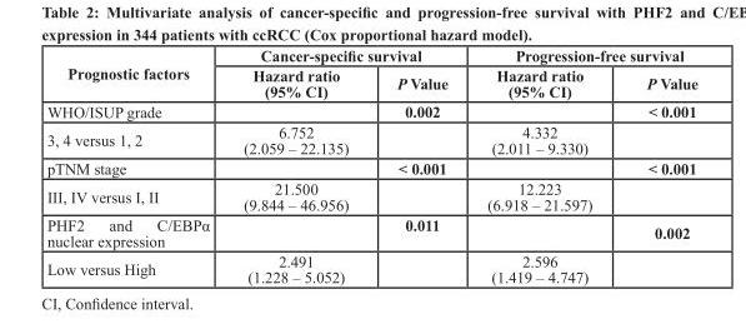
<table><thead><tr><td rowspan="2">Prognostic factors</td><td colspan="2">Cancer-specific survival</td><td colspan="2">Progression-free survival</td></tr><tr><td>Hazard ratio (95% CI)</td><td>P Value</td><td>Hazard ratio (95% CI)</td><td>P Value</td></tr></thead><tbody><tr><td>WHO/ISUP grade</td><td></td><td>0.002</td><td></td><td>&lt; 0.001</td></tr><tr><td>3, 4 versus 1, 2</td><td>6.752 (2.059 – 22.135)</td><td></td><td>4.332 (2.011 – 9.330)</td><td></td></tr><tr><td>pTNM stage</td><td></td><td>&lt; 0.001</td><td></td><td>&lt; 0.001</td></tr><tr><td>III, IV versus I, II</td><td>21.500 (9.844 – 46.956)</td><td></td><td>12.223 (6.918 – 21.597)</td><td></td></tr><tr><td>PHF2 and C/EBPα nuclear expression</td><td></td><td>0.011</td><td></td><td>0.002</td></tr><tr><td>Low versus High</td><td>2.491 (1.228 – 5.052)</td><td></td><td>2.596 (1.419 – 4.747)</td><td></td></tr></tbody></table>